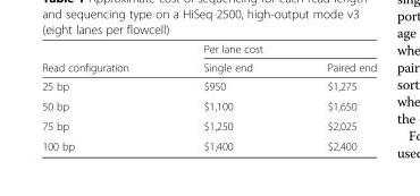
<table><thead><tr><td rowspan="2">Read configuration</td><td colspan="2">Per lane cost</td></tr><tr><td>Single end</td><td>Paired end</td></tr></thead><tbody><tr><td>25 bp</td><td>$950</td><td>$1,275</td></tr><tr><td>50 bp</td><td>$1,100</td><td>$1,650</td></tr><tr><td>75 bp</td><td>$1,250</td><td>$2,025</td></tr><tr><td>100 bp</td><td>$1,400</td><td>$2,400</td></tr></tbody></table>